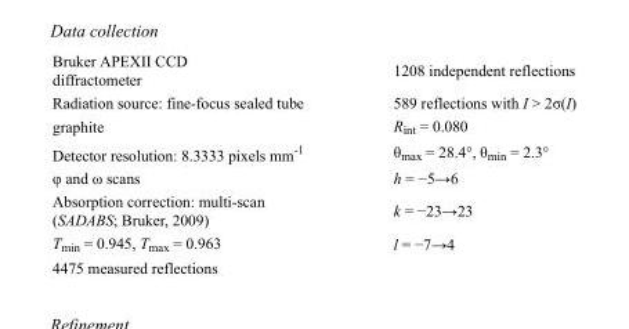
<table><tbody><tr><td>Bruker APEXII CCD diffractometer</td><td>1208 independent reflections</td></tr><tr><td>Radiation source: fine-focus sealed tube</td><td>589 reflections with I &gt; 2σ(I)</td></tr><tr><td>graphite</td><td>R<sub>int</sub> = 0.080</td></tr><tr><td>Detector resolution: 8.3333 pixels mm<sup>-1</sup></td><td>θ<sub>max</sub> = 28.4°, θ<sub>min</sub> = 2.3°</td></tr><tr><td>φ and ω scans</td><td>h = −5→6</td></tr><tr><td>Absorption correction: multi-scan (SADABS; Bruker, 2009)</td><td>k = −23→23</td></tr><tr><td>T<sub>min</sub> = 0.945, T<sub>max</sub> = 0.963</td><td>l = −7→4</td></tr><tr><td>4475 measured reflections</td><td></td></tr></tbody></table>